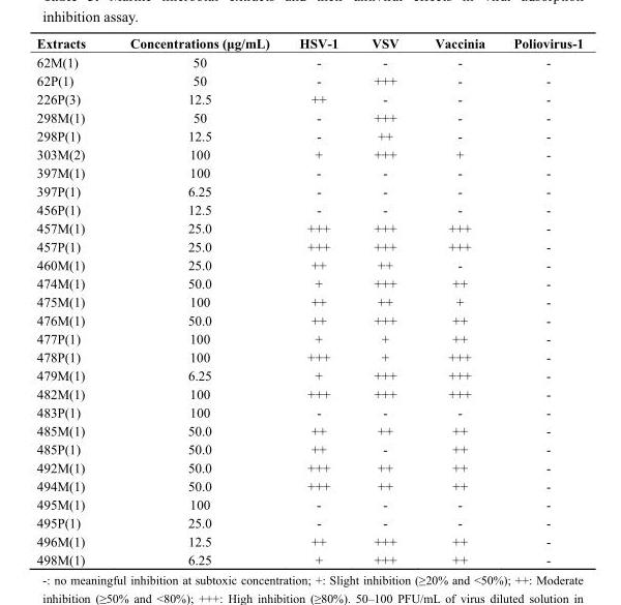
<table><thead><tr><td>Extracts</td><td>Concentrations (μg/mL)</td><td>HSV-1</td><td>VSV</td><td>Vaccinia</td><td>Poliovirus-1</td></tr></thead><tbody><tr><td>62M(1)</td><td>50</td><td>-</td><td>-</td><td>-</td><td>-</td></tr><tr><td>62P(1)</td><td>50</td><td>-</td><td>+++</td><td>-</td><td>-</td></tr><tr><td>226P(3)</td><td>12.5</td><td>++</td><td>-</td><td>-</td><td>-</td></tr><tr><td>298M(1)</td><td>50</td><td>-</td><td>+++</td><td>-</td><td>-</td></tr><tr><td>298P(1)</td><td>12.5</td><td>-</td><td>++</td><td>-</td><td>-</td></tr><tr><td>303M(2)</td><td>100</td><td>+</td><td>+++</td><td>+</td><td>-</td></tr><tr><td>397M(1)</td><td>100</td><td>-</td><td>-</td><td>-</td><td>-</td></tr><tr><td>397P(1)</td><td>6.25</td><td>-</td><td>-</td><td>-</td><td>-</td></tr><tr><td>456P(1)</td><td>12.5</td><td>-</td><td>-</td><td>-</td><td>-</td></tr><tr><td>457M(1)</td><td>25.0</td><td>+++</td><td>+++</td><td>+++</td><td>-</td></tr><tr><td>457P(1)</td><td>25.0</td><td>+++</td><td>+++</td><td>+++</td><td>-</td></tr><tr><td>460M(1)</td><td>25.0</td><td>++</td><td>++</td><td>-</td><td>-</td></tr><tr><td>474M(1)</td><td>50.0</td><td>+</td><td>+++</td><td>++</td><td>-</td></tr><tr><td>475M(1)</td><td>100</td><td>++</td><td>++</td><td>+</td><td>-</td></tr><tr><td>476M(1)</td><td>50.0</td><td>++</td><td>+++</td><td>++</td><td>-</td></tr><tr><td>477P(1)</td><td>100</td><td>+</td><td>+</td><td>++</td><td>-</td></tr><tr><td>478P(1)</td><td>100</td><td>+++</td><td>+</td><td>+++</td><td>-</td></tr><tr><td>479M(1)</td><td>6.25</td><td>+</td><td>+++</td><td>+++</td><td>-</td></tr><tr><td>482M(1)</td><td>100</td><td>+++</td><td>+++</td><td>+++</td><td>-</td></tr><tr><td>483P(1)</td><td>100</td><td>-</td><td>-</td><td>-</td><td>-</td></tr><tr><td>485M(1)</td><td>50.0</td><td>++</td><td>++</td><td>++</td><td>-</td></tr><tr><td>485P(1)</td><td>50.0</td><td>++</td><td>-</td><td>++</td><td>-</td></tr><tr><td>492M(1)</td><td>50.0</td><td>+++</td><td>++</td><td>++</td><td>-</td></tr><tr><td>494M(1)</td><td>50.0</td><td>+++</td><td>++</td><td>++</td><td>-</td></tr><tr><td>495M(1)</td><td>100</td><td>-</td><td>-</td><td>-</td><td>-</td></tr><tr><td>495P(1)</td><td>25.0</td><td>-</td><td>-</td><td>-</td><td>-</td></tr><tr><td>496M(1)</td><td>12.5</td><td>++</td><td>+++</td><td>++</td><td>-</td></tr><tr><td>498M(1)</td><td>6.25</td><td>+</td><td>+++</td><td>++</td><td>-</td></tr></tbody></table>